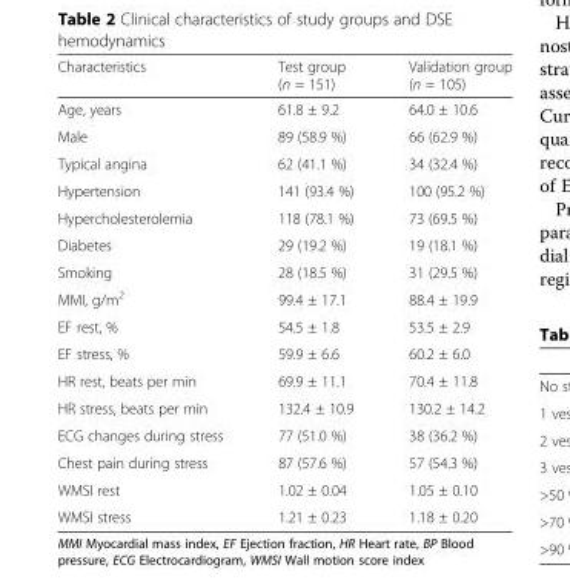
<table><thead><tr><td>Characteristics</td><td>Test group (n = 151)</td><td>Validation group (n = 105)</td></tr></thead><tbody><tr><td>Age, years</td><td>61.8 ± 9.2</td><td>64.0 ± 10.6</td></tr><tr><td>Male</td><td>89 (58.9 %)</td><td>66 (62.9 %)</td></tr><tr><td>Typical angina</td><td>62 (41.1 %)</td><td>34 (32.4 %)</td></tr><tr><td>Hypertension</td><td>141 (93.4 %)</td><td>100 (95.2 %)</td></tr><tr><td>Hypercholesterolemia</td><td>118 (78.1 %)</td><td>73 (69.5 %)</td></tr><tr><td>Diabetes</td><td>29 (19.2 %)</td><td>19 (18.1 %)</td></tr><tr><td>Smoking</td><td>28 (18.5 %)</td><td>31 (29.5 %)</td></tr><tr><td>MMI, g/m<sup>2</sup></td><td>99.4 ± 17.1</td><td>88.4 ± 19.9</td></tr><tr><td>EF rest, %</td><td>54.5 ± 1.8</td><td>53.5 ± 2.9</td></tr><tr><td>EF stress, %</td><td>59.9 ± 6.6</td><td>60.2 ± 6.0</td></tr><tr><td>HR rest, beats per min</td><td>69.9 ± 11.1</td><td>70.4 ± 11.8</td></tr><tr><td>HR stress, beats per min</td><td>132.4 ± 10.9</td><td>130.2 ± 14.2</td></tr><tr><td>ECG changes during stress</td><td>77 (51.0 %)</td><td>38 (36.2 %)</td></tr><tr><td>Chest pain during stress</td><td>87 (57.6 %)</td><td>57 (54.3 %)</td></tr><tr><td>WMSI rest</td><td>1.02 ± 0.04</td><td>1.05 ± 0.10</td></tr><tr><td>WMSI stress</td><td>1.21 ± 0.23</td><td>1.18 ± 0.20</td></tr></tbody></table>